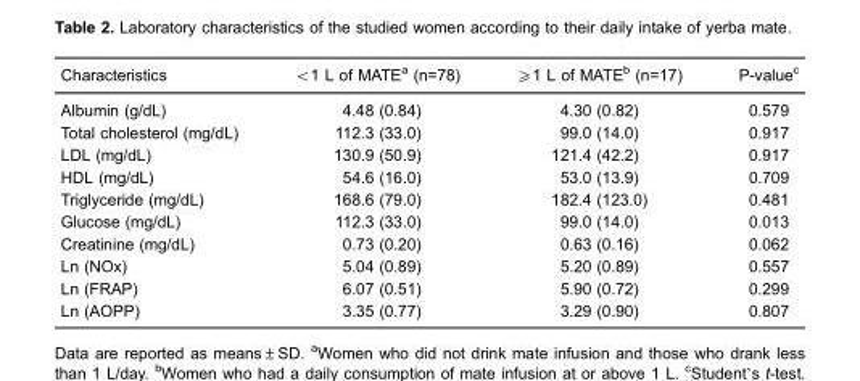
<table><thead><tr><td>Characteristics</td><td>&lt;1 L of MATE<sup>a</sup> (n=78)</td><td>≥1 L of MATE<sup>b</sup> (n=17)</td><td>P-value<sup>c</sup></td></tr></thead><tbody><tr><td>Albumin (g/dL)</td><td>4.48 (0.84)</td><td>4.30 (0.82)</td><td>0.579</td></tr><tr><td>Total cholesterol (mg/dL)</td><td>112.3 (33.0)</td><td>99.0 (14.0)</td><td>0.917</td></tr><tr><td>LDL (mg/dL)</td><td>130.9 (50.9)</td><td>121.4 (42.2)</td><td>0.917</td></tr><tr><td>HDL (mg/dL)</td><td>54.6 (16.0)</td><td>53.0 (13.9)</td><td>0.709</td></tr><tr><td>Triglyceride (mg/dL)</td><td>168.6 (79.0)</td><td>182.4 (123.0)</td><td>0.481</td></tr><tr><td>Glucose (mg/dL)</td><td>112.3 (33.0)</td><td>99.0 (14.0)</td><td>0.013</td></tr><tr><td>Creatinine (mg/dL)</td><td>0.73 (0.20)</td><td>0.63 (0.16)</td><td>0.062</td></tr><tr><td>Ln (NOx)</td><td>5.04 (0.89)</td><td>5.20 (0.89)</td><td>0.557</td></tr><tr><td>Ln (FRAP)</td><td>6.07 (0.51)</td><td>5.90 (0.72)</td><td>0.299</td></tr><tr><td>Ln (AOPP)</td><td>3.35 (0.77)</td><td>3.29 (0.90)</td><td>0.807</td></tr></tbody></table>